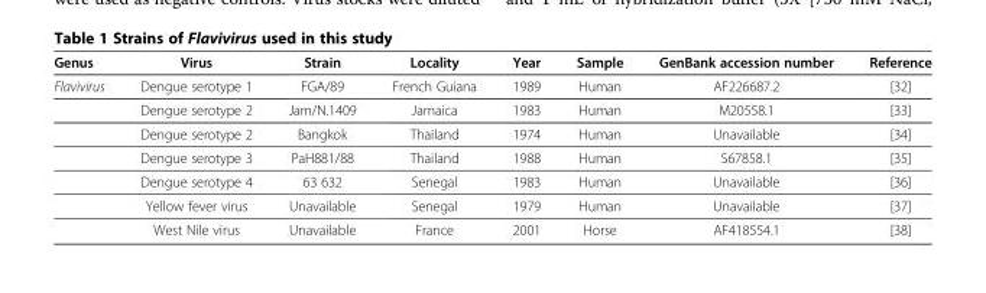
<table><thead><tr><td>Genus</td><td>Virus</td><td>Strain</td><td>Locality</td><td>Year</td><td>Sample</td><td>GenBank accession number</td><td>Reference</td></tr></thead><tbody><tr><td rowspan="7">Flavivirus</td><td>Dengue serotype 1</td><td>FGA/89</td><td>French Guiana</td><td>1989</td><td>Human</td><td>AF226687.2</td><td>[32]</td></tr><tr><td>Dengue serotype 2</td><td>Jam/N.1409</td><td>Jamaica</td><td>1983</td><td>Human</td><td>M20558.1</td><td>[33]</td></tr><tr><td>Dengue serotype 2</td><td>Bangkok</td><td>Thailand</td><td>1974</td><td>Human</td><td>Unavailable</td><td>[34]</td></tr><tr><td>Dengue serotype 3</td><td>PaH881/88</td><td>Thailand</td><td>1988</td><td>Human</td><td>S67858.1</td><td>[35]</td></tr><tr><td>Dengue serotype 4</td><td>63 632</td><td>Senegal</td><td>1983</td><td>Human</td><td>Unavailable</td><td>[36]</td></tr><tr><td>Yellow fever virus</td><td>Unavailable</td><td>Senegal</td><td>1979</td><td>Human</td><td>Unavailable</td><td>[37]</td></tr><tr><td>West Nile virus</td><td>Unavailable</td><td>France</td><td>2001</td><td>Horse</td><td>AF418554.1</td><td>[38]</td></tr></tbody></table>